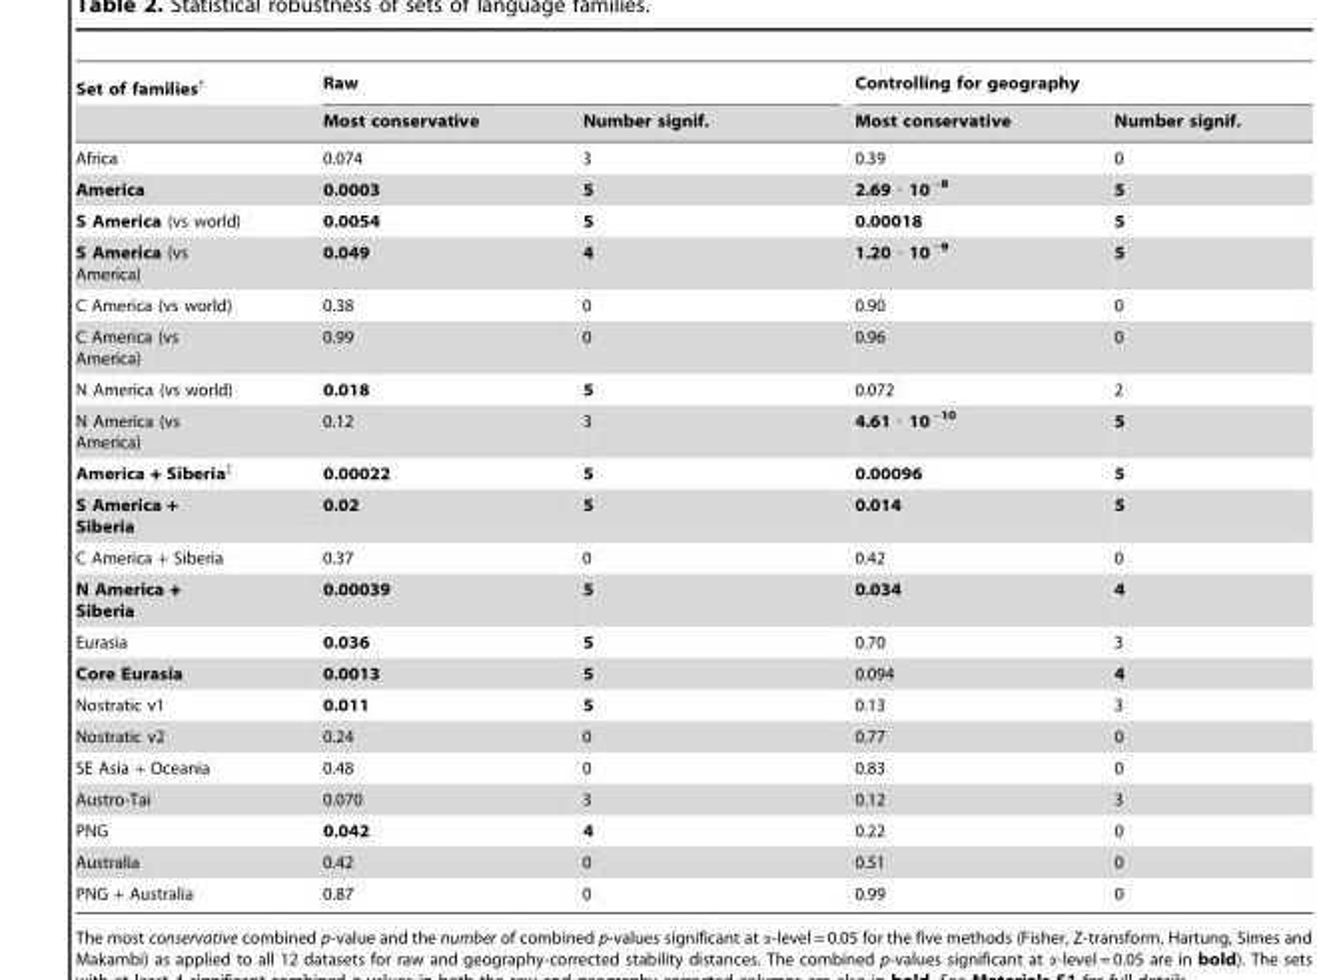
<table><thead><tr><td rowspan="2">Set of families†</td><td colspan="2">Raw</td><td colspan="2">Controlling for geography</td></tr><tr><td>Most conservative</td><td>Number signif.</td><td>Most conservative</td><td>Number signif.</td></tr></thead><tbody><tr><td>Africa</td><td>0.074</td><td>3</td><td>0.39</td><td>0</td></tr><tr><td>America</td><td>0.0003</td><td>5</td><td>2.69 · 10<sup>−8</sup></td><td>5</td></tr><tr><td>S America (vs world)</td><td>0.0054</td><td>5</td><td>0.00018</td><td>5</td></tr><tr><td>S America (vs America)</td><td>0.049</td><td>4</td><td>1.20 · 10<sup>−9</sup></td><td>5</td></tr><tr><td>C America (vs world)</td><td>0.38</td><td>0</td><td>0.90</td><td>0</td></tr><tr><td>C America (vs America)</td><td>0.99</td><td>0</td><td>0.96</td><td>0</td></tr><tr><td>N America (vs world)</td><td>0.018</td><td>5</td><td>0.072</td><td>2</td></tr><tr><td>N America (vs America)</td><td>0.12</td><td>3</td><td>4.61 · 10<sup>−10</sup></td><td>5</td></tr><tr><td>America + Siberia‡</td><td>0.00022</td><td>5</td><td>0.00096</td><td>5</td></tr><tr><td>S America + Siberia</td><td>0.02</td><td>5</td><td>0.014</td><td>5</td></tr><tr><td>C America + Siberia</td><td>0.37</td><td>0</td><td>0.42</td><td>0</td></tr><tr><td>N America + Siberia</td><td>0.00039</td><td>5</td><td>0.034</td><td>4</td></tr><tr><td>Eurasia</td><td>0.036</td><td>5</td><td>0.70</td><td>3</td></tr><tr><td>Core Eurasia</td><td>0.0013</td><td>5</td><td>0.094</td><td>4</td></tr><tr><td>Nostratic v1</td><td>0.011</td><td>5</td><td>0.13</td><td>3</td></tr><tr><td>Nostratic v2</td><td>0.24</td><td>0</td><td>0.77</td><td>0</td></tr><tr><td>SE Asia + Oceania</td><td>0.48</td><td>0</td><td>0.83</td><td>0</td></tr><tr><td>Austro-Tai</td><td>0.070</td><td>3</td><td>0.12</td><td>3</td></tr><tr><td>PNG</td><td>0.042</td><td>4</td><td>0.22</td><td>0</td></tr><tr><td>Australia</td><td>0.42</td><td>0</td><td>0.51</td><td>0</td></tr><tr><td>PNG + Australia</td><td>0.87</td><td>0</td><td>0.99</td><td>0</td></tr></tbody></table>